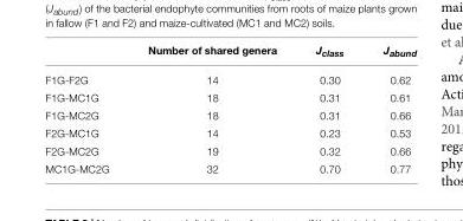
<table><thead><tr><td></td><td>Number of shared genera</td><td>Jclass</td><td>Jabund</td></tr></thead><tbody><tr><td>F1G-F2G</td><td>14</td><td>0.30</td><td>0.62</td></tr><tr><td>F1G-MC1G</td><td>18</td><td>0.31</td><td>0.61</td></tr><tr><td>F1G-MC2G</td><td>18</td><td>0.31</td><td>0.66</td></tr><tr><td>F2G-MC1G</td><td>14</td><td>0.23</td><td>0.53</td></tr><tr><td>F2G-MC2G</td><td>19</td><td>0.32</td><td>0.66</td></tr><tr><td>MC1G-MC2G</td><td>32</td><td>0.70</td><td>0.77</td></tr></tbody></table>